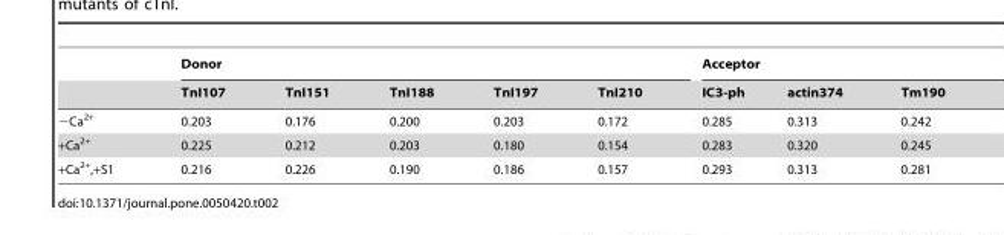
<table><thead><tr><td rowspan="2"></td><td colspan="5">Donor</td><td colspan="3">Acceptor</td></tr><tr><td>TnI107</td><td>TnI151</td><td>TnI188</td><td>TnI197</td><td>TnI210</td><td>IC3-ph</td><td>actin374</td><td>Tm190</td></tr></thead><tbody><tr><td>−Ca<sup>2+</sup></td><td>0.203</td><td>0.176</td><td>0.200</td><td>0.203</td><td>0.172</td><td>0.285</td><td>0.313</td><td>0.242</td></tr><tr><td>+Ca<sup>2+</sup></td><td>0.225</td><td>0.212</td><td>0.203</td><td>0.180</td><td>0.154</td><td>0.283</td><td>0.320</td><td>0.245</td></tr><tr><td>+Ca<sup>2+</sup>,+S1</td><td>0.216</td><td>0.226</td><td>0.190</td><td>0.186</td><td>0.157</td><td>0.293</td><td>0.313</td><td>0.281</td></tr></tbody></table>